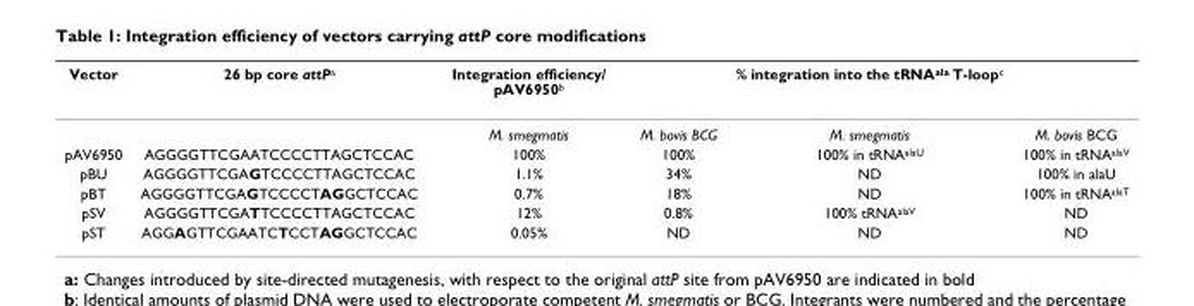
<table><thead><tr><td>Vector</td><td>26 bp core attPa</td><td>Integration efficiency/ pAV6950b</td><td></td><td>% integration into the tRNAala T-loopc</td><td></td></tr></thead><tbody><tr><td></td><td></td><td>M. smegmatis</td><td>M. bovis BCG</td><td>M. smegmatis</td><td>M. bovis BCG</td></tr><tr><td>pAV6950</td><td>AGGGGTTCGAATCCCCTTAGCTCCAC</td><td>100%</td><td>100%</td><td>100% in tRNAalaU</td><td>100% in tRNAalaV</td></tr><tr><td>pBU</td><td>AGGGGTTCGAGTCCCCTTAGCTCCAC</td><td>1.1%</td><td>34%</td><td>ND</td><td>100% in alaU</td></tr><tr><td>pBT</td><td>AGGGGTTCGAGTCCCCTAGGCTCCAC</td><td>0.7%</td><td>18%</td><td>ND</td><td>100% in tRNAalaT</td></tr><tr><td>pSV</td><td>AGGGGTTCGATTCCCCTTAGCTCCAC</td><td>12%</td><td>0.8%</td><td>100% tRNAalaV</td><td>ND</td></tr><tr><td>pST</td><td>AGGAGTTCGAATCTCCTAGGCTCCAC</td><td>0.05%</td><td>ND</td><td>ND</td><td>ND</td></tr></tbody></table>